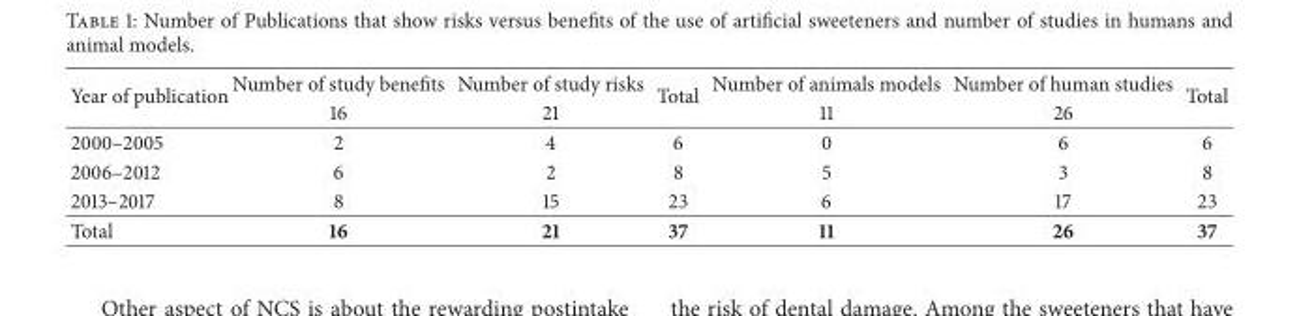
<table><thead><tr><td rowspan="2">Year of publication</td><td rowspan="2">Number of study benefits 16</td><td rowspan="2">Number of study risks 21</td><td rowspan="2">Total</td><td rowspan="2">Number of animals models 11</td><td rowspan="2">Number of human studies 26</td><td rowspan="2">Total</td></tr><tr></tr></thead><tbody><tr><td>2000–2005</td><td>2</td><td>4</td><td>6</td><td>0</td><td>6</td><td>6</td></tr><tr><td>2006–2012</td><td>6</td><td>2</td><td>8</td><td>5</td><td>3</td><td>8</td></tr><tr><td>2013–2017</td><td>8</td><td>15</td><td>23</td><td>6</td><td>17</td><td>23</td></tr><tr><td>Total</td><td>16</td><td>21</td><td>37</td><td>11</td><td>26</td><td>37</td></tr></tbody></table>